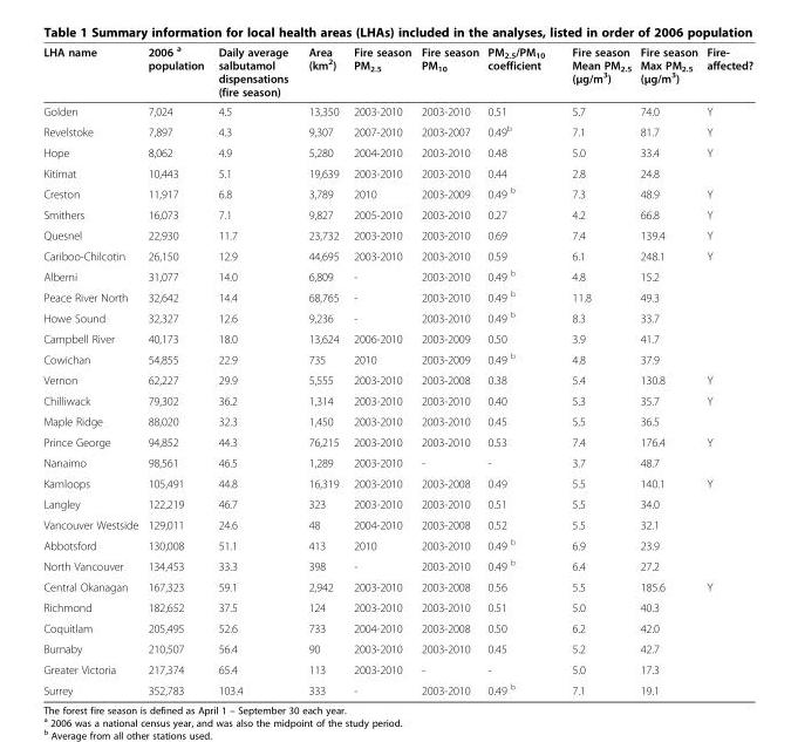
<table><thead><tr><td>LHA name</td><td>2006 <sup>a</sup> population</td><td>Daily average salbutamol dispensations (fire season)</td><td>Area (km<sup>2</sup>)</td><td>Fire season PM<sub>2.5</sub></td><td>Fire season PM<sub>10</sub></td><td>PM<sub>2.5</sub>/PM<sub>10</sub> coefficient</td><td>Fire season Mean PM<sub>2.5</sub> (μg/m<sup>3</sup>)</td><td>Fire season Max PM<sub>2.5</sub> (μg/m<sup>3</sup>)</td><td>Fire- affected?</td></tr></thead><tbody><tr><td>Golden</td><td>7,024</td><td>4.5</td><td>13,350</td><td>2003-2010</td><td>2003-2010</td><td>0.51</td><td>5.7</td><td>74.0</td><td>Y</td></tr><tr><td>Revelstoke</td><td>7,897</td><td>4.3</td><td>9,307</td><td>2007-2010</td><td>2003-2007</td><td>0.49<sup>b</sup></td><td>7.1</td><td>81.7</td><td>Y</td></tr><tr><td>Hope</td><td>8,062</td><td>4.9</td><td>5,280</td><td>2004-2010</td><td>2003-2010</td><td>0.48</td><td>5.0</td><td>33.4</td><td>Y</td></tr><tr><td>Kitimat</td><td>10,443</td><td>5.1</td><td>19,639</td><td>2003-2010</td><td>2003-2010</td><td>0.44</td><td>2.8</td><td>24.8</td><td></td></tr><tr><td>Creston</td><td>11,917</td><td>6.8</td><td>3,789</td><td>2010</td><td>2003-2009</td><td>0.49 <sup>b</sup></td><td>7.3</td><td>48.9</td><td>Y</td></tr><tr><td>Smithers</td><td>16,073</td><td>7.1</td><td>9,827</td><td>2005-2010</td><td>2003-2010</td><td>0.27</td><td>4.2</td><td>66.8</td><td>Y</td></tr><tr><td>Quesnel</td><td>22,930</td><td>11.7</td><td>23,732</td><td>2003-2010</td><td>2003-2010</td><td>0.69</td><td>7.4</td><td>139.4</td><td>Y</td></tr><tr><td>Cariboo-Chilcotin</td><td>26,150</td><td>12.9</td><td>44,695</td><td>2003-2010</td><td>2003-2010</td><td>0.59</td><td>6.1</td><td>248.1</td><td>Y</td></tr><tr><td>Alberni</td><td>31,077</td><td>14.0</td><td>6,809</td><td>-</td><td>2003-2010</td><td>0.49 <sup>b</sup></td><td>4.8</td><td>15.2</td><td></td></tr><tr><td>Peace River North</td><td>32,642</td><td>14.4</td><td>68,765</td><td>-</td><td>2003-2010</td><td>0.49 <sup>b</sup></td><td>11.8</td><td>49.3</td><td></td></tr><tr><td>Howe Sound</td><td>32,327</td><td>12.6</td><td>9,236</td><td>-</td><td>2003-2010</td><td>0.49 <sup>b</sup></td><td>8.3</td><td>33.7</td><td></td></tr><tr><td>Campbell River</td><td>40,173</td><td>18.0</td><td>13,624</td><td>2006-2010</td><td>2003-2009</td><td>0.50</td><td>3.9</td><td>41.7</td><td></td></tr><tr><td>Cowichan</td><td>54,855</td><td>22.9</td><td>735</td><td>2010</td><td>2003-2009</td><td>0.49 <sup>b</sup></td><td>4.8</td><td>37.9</td><td></td></tr><tr><td>Vernon</td><td>62,227</td><td>29.9</td><td>5,555</td><td>2003-2010</td><td>2003-2008</td><td>0.38</td><td>5.4</td><td>130.8</td><td>Y</td></tr><tr><td>Chilliwack</td><td>79,302</td><td>36.2</td><td>1,314</td><td>2003-2010</td><td>2003-2010</td><td>0.40</td><td>5.3</td><td>35.7</td><td>Y</td></tr><tr><td>Maple Ridge</td><td>88,020</td><td>32.3</td><td>1,450</td><td>2003-2010</td><td>2003-2010</td><td>0.45</td><td>5.5</td><td>36.5</td><td></td></tr><tr><td>Prince George</td><td>94,852</td><td>44.3</td><td>76,215</td><td>2003-2010</td><td>2003-2010</td><td>0.53</td><td>7.4</td><td>176.4</td><td>Y</td></tr><tr><td>Nanaimo</td><td>98,561</td><td>46.5</td><td>1,289</td><td>2003-2010</td><td>-</td><td>-</td><td>3.7</td><td>48.7</td><td></td></tr><tr><td>Kamloops</td><td>105,491</td><td>44.8</td><td>16,319</td><td>2003-2010</td><td>2003-2008</td><td>0.49</td><td>5.5</td><td>140.1</td><td>Y</td></tr><tr><td>Langley</td><td>122,219</td><td>46.7</td><td>323</td><td>2003-2010</td><td>2003-2010</td><td>0.51</td><td>5.5</td><td>34.0</td><td></td></tr><tr><td>Vancouver Westside</td><td>129,011</td><td>24.6</td><td>48</td><td>2004-2010</td><td>2003-2008</td><td>0.52</td><td>5.5</td><td>32.1</td><td></td></tr><tr><td>Abbotsford</td><td>130,008</td><td>51.1</td><td>413</td><td>2010</td><td>2003-2010</td><td>0.49 <sup>b</sup></td><td>6.9</td><td>23.9</td><td></td></tr><tr><td>North Vancouver</td><td>134,453</td><td>33.3</td><td>398</td><td>-</td><td>2003-2010</td><td>0.49 <sup>b</sup></td><td>6.4</td><td>27.2</td><td></td></tr><tr><td>Central Okanagan</td><td>167,323</td><td>59.1</td><td>2,942</td><td>2003-2010</td><td>2003-2008</td><td>0.56</td><td>5.5</td><td>185.6</td><td>Y</td></tr><tr><td>Richmond</td><td>182,652</td><td>37.5</td><td>124</td><td>2003-2010</td><td>2003-2010</td><td>0.51</td><td>5.0</td><td>40.3</td><td></td></tr><tr><td>Coquitlam</td><td>205,495</td><td>52.6</td><td>733</td><td>2004-2010</td><td>2003-2008</td><td>0.50</td><td>6.2</td><td>42.0</td><td></td></tr><tr><td>Burnaby</td><td>210,507</td><td>56.4</td><td>90</td><td>2003-2010</td><td>2003-2010</td><td>0.45</td><td>5.2</td><td>42.7</td><td></td></tr><tr><td>Greater Victoria</td><td>217,374</td><td>65.4</td><td>113</td><td>2003-2010</td><td>-</td><td>-</td><td>5.0</td><td>17.3</td><td></td></tr><tr><td>Surrey</td><td>352,783</td><td>103.4</td><td>333</td><td>-</td><td>2003-2010</td><td>0.49 <sup>b</sup></td><td>7.1</td><td>19.1</td><td></td></tr></tbody></table>